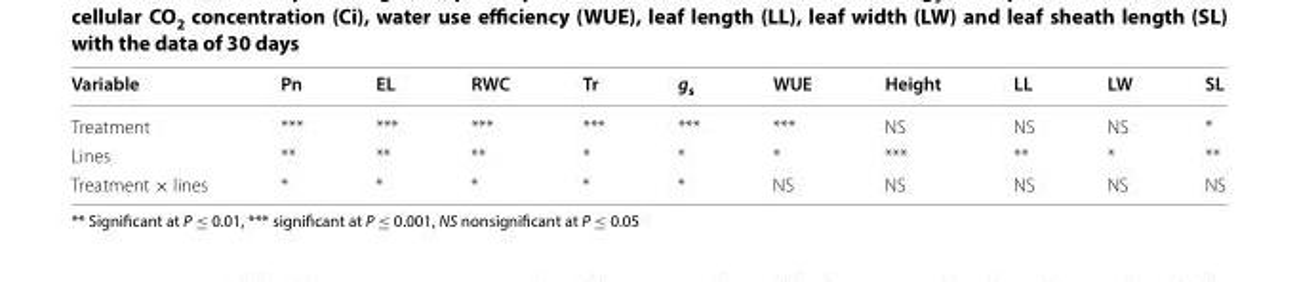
<table><thead><tr><td>Variable</td><td>Pn</td><td>EL</td><td>RWC</td><td>Tr</td><td>g<sub>s</sub></td><td>WUE</td><td>Height</td><td>LL</td><td>LW</td><td>SL</td></tr></thead><tbody><tr><td>Treatment</td><td>***</td><td>***</td><td>***</td><td>***</td><td>***</td><td>***</td><td>NS</td><td>NS</td><td>NS</td><td>*</td></tr><tr><td>Lines</td><td>**</td><td>**</td><td>**</td><td>*</td><td>*</td><td>*</td><td>***</td><td>**</td><td>*</td><td>**</td></tr><tr><td>Treatment × lines</td><td>*</td><td>*</td><td>*</td><td>*</td><td>*</td><td>NS</td><td>NS</td><td>NS</td><td>NS</td><td>NS</td></tr></tbody></table>